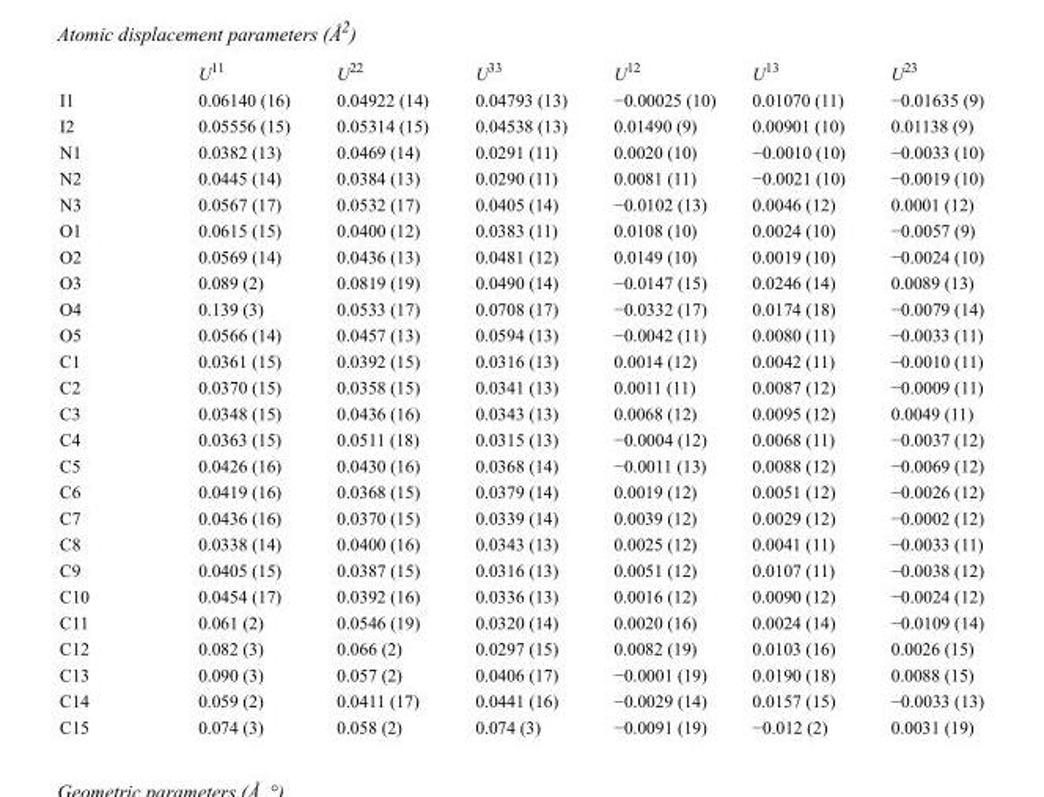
<table><thead><tr><td></td><td>U<sup>11</sup></td><td>U<sup>22</sup></td><td>U<sup>33</sup></td><td>U<sup>12</sup></td><td>U<sup>13</sup></td><td>U<sup>23</sup></td></tr></thead><tbody><tr><td>I1</td><td>0.06140 (16)</td><td>0.04922 (14)</td><td>0.04793 (13)</td><td>−0.00025 (10)</td><td>0.01070 (11)</td><td>−0.01635 (9)</td></tr><tr><td>I2</td><td>0.05556 (15)</td><td>0.05314 (15)</td><td>0.04538 (13)</td><td>0.01490 (9)</td><td>0.00901 (10)</td><td>0.01138 (9)</td></tr><tr><td>N1</td><td>0.0382 (13)</td><td>0.0469 (14)</td><td>0.0291 (11)</td><td>0.0020 (10)</td><td>−0.0010 (10)</td><td>−0.0033 (10)</td></tr><tr><td>N2</td><td>0.0445 (14)</td><td>0.0384 (13)</td><td>0.0290 (11)</td><td>0.0081 (11)</td><td>−0.0021 (10)</td><td>−0.0019 (10)</td></tr><tr><td>N3</td><td>0.0567 (17)</td><td>0.0532 (17)</td><td>0.0405 (14)</td><td>−0.0102 (13)</td><td>0.0046 (12)</td><td>0.0001 (12)</td></tr><tr><td>O1</td><td>0.0615 (15)</td><td>0.0400 (12)</td><td>0.0383 (11)</td><td>0.0108 (10)</td><td>0.0024 (10)</td><td>−0.0057 (9)</td></tr><tr><td>O2</td><td>0.0569 (14)</td><td>0.0436 (13)</td><td>0.0481 (12)</td><td>0.0149 (10)</td><td>0.0019 (10)</td><td>−0.0024 (10)</td></tr><tr><td>O3</td><td>0.089 (2)</td><td>0.0819 (19)</td><td>0.0490 (14)</td><td>−0.0147 (15)</td><td>0.0246 (14)</td><td>0.0089 (13)</td></tr><tr><td>O4</td><td>0.139 (3)</td><td>0.0533 (17)</td><td>0.0708 (17)</td><td>−0.0332 (17)</td><td>0.0174 (18)</td><td>−0.0079 (14)</td></tr><tr><td>O5</td><td>0.0566 (14)</td><td>0.0457 (13)</td><td>0.0594 (13)</td><td>−0.0042 (11)</td><td>0.0080 (11)</td><td>−0.0033 (11)</td></tr><tr><td>C1</td><td>0.0361 (15)</td><td>0.0392 (15)</td><td>0.0316 (13)</td><td>0.0014 (12)</td><td>0.0042 (11)</td><td>−0.0010 (11)</td></tr><tr><td>C2</td><td>0.0370 (15)</td><td>0.0358 (15)</td><td>0.0341 (13)</td><td>0.0011 (11)</td><td>0.0087 (12)</td><td>−0.0009 (11)</td></tr><tr><td>C3</td><td>0.0348 (15)</td><td>0.0436 (16)</td><td>0.0343 (13)</td><td>0.0068 (12)</td><td>0.0095 (12)</td><td>0.0049 (11)</td></tr><tr><td>C4</td><td>0.0363 (15)</td><td>0.0511 (18)</td><td>0.0315 (13)</td><td>−0.0004 (12)</td><td>0.0068 (11)</td><td>−0.0037 (12)</td></tr><tr><td>C5</td><td>0.0426 (16)</td><td>0.0430 (16)</td><td>0.0368 (14)</td><td>−0.0011 (13)</td><td>0.0088 (12)</td><td>−0.0069 (12)</td></tr><tr><td>C6</td><td>0.0419 (16)</td><td>0.0368 (15)</td><td>0.0379 (14)</td><td>0.0019 (12)</td><td>0.0051 (12)</td><td>−0.0026 (12)</td></tr><tr><td>C7</td><td>0.0436 (16)</td><td>0.0370 (15)</td><td>0.0339 (14)</td><td>0.0039 (12)</td><td>0.0029 (12)</td><td>−0.0002 (12)</td></tr><tr><td>C8</td><td>0.0338 (14)</td><td>0.0400 (16)</td><td>0.0343 (13)</td><td>0.0025 (12)</td><td>0.0041 (11)</td><td>−0.0033 (11)</td></tr><tr><td>C9</td><td>0.0405 (15)</td><td>0.0387 (15)</td><td>0.0316 (13)</td><td>0.0051 (12)</td><td>0.0107 (11)</td><td>−0.0038 (12)</td></tr><tr><td>C10</td><td>0.0454 (17)</td><td>0.0392 (16)</td><td>0.0336 (13)</td><td>0.0016 (12)</td><td>0.0090 (12)</td><td>−0.0024 (12)</td></tr><tr><td>C11</td><td>0.061 (2)</td><td>0.0546 (19)</td><td>0.0320 (14)</td><td>0.0020 (16)</td><td>0.0024 (14)</td><td>−0.0109 (14)</td></tr><tr><td>C12</td><td>0.082 (3)</td><td>0.066 (2)</td><td>0.0297 (15)</td><td>0.0082 (19)</td><td>0.0103 (16)</td><td>0.0026 (15)</td></tr><tr><td>C13</td><td>0.090 (3)</td><td>0.057 (2)</td><td>0.0406 (17)</td><td>−0.0001 (19)</td><td>0.0190 (18)</td><td>0.0088 (15)</td></tr><tr><td>C14</td><td>0.059 (2)</td><td>0.0411 (17)</td><td>0.0441 (16)</td><td>−0.0029 (14)</td><td>0.0157 (15)</td><td>−0.0033 (13)</td></tr><tr><td>C15</td><td>0.074 (3)</td><td>0.058 (2)</td><td>0.074 (3)</td><td>−0.0091 (19)</td><td>−0.012 (2)</td><td>0.0031 (19)</td></tr></tbody></table>